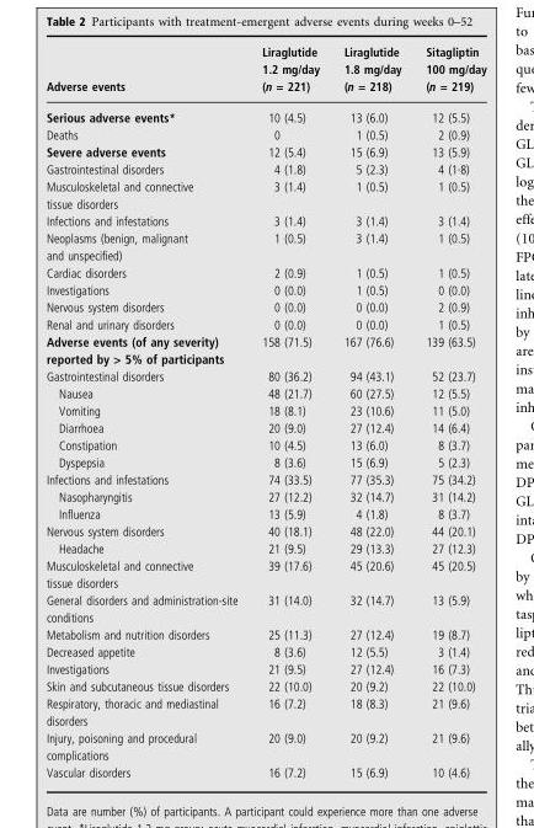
<table><thead><tr><td>Adverse events</td><td>Liraglutide 1.2 mg/day (n = 221)</td><td>Liraglutide 1.8 mg/day (n = 218)</td><td>Sitagliptin 100 mg/day (n = 219)</td></tr></thead><tbody><tr><td>Serious adverse events*</td><td>10 (4.5)</td><td>13 (6.0)</td><td>12 (5.5)</td></tr><tr><td>Deaths</td><td>0</td><td>1 (0.5)</td><td>2 (0.9)</td></tr><tr><td>Severe adverse events</td><td>12 (5.4)</td><td>15 (6.9)</td><td>13 (5.9)</td></tr><tr><td>Gastrointestinal disorders</td><td>4 (1.8)</td><td>5 (2.3)</td><td>4 (1Æ8)</td></tr><tr><td>Musculoskeletal and connective tissue disorders</td><td>3 (1.4)</td><td>1 (0.5)</td><td>1 (0.5)</td></tr><tr><td>Infections and infestations</td><td>3 (1.4)</td><td>3 (1.4)</td><td>3 (1.4)</td></tr><tr><td>Neoplasms (benign, malignant and unspecified)</td><td>1 (0.5)</td><td>3 (1.4)</td><td>1 (0.5)</td></tr><tr><td>Cardiac disorders</td><td>2 (0.9)</td><td>1 (0.5)</td><td>1 (0.5)</td></tr><tr><td>Investigations</td><td>0 (0.0)</td><td>1 (0.5)</td><td>0 (0.0)</td></tr><tr><td>Nervous system disorders</td><td>0 (0.0)</td><td>0 (0.0)</td><td>2 (0.9)</td></tr><tr><td>Renal and urinary disorders</td><td>0 (0.0)</td><td>0 (0.0)</td><td>1 (0.5)</td></tr><tr><td>Adverse events (of any severity) reported by &gt; 5% of participants</td><td>158 (71.5)</td><td>167 (76.6)</td><td>139 (63.5)</td></tr><tr><td>Gastrointestinal disorders</td><td>80 (36.2)</td><td>94 (43.1)</td><td>52 (23.7)</td></tr><tr><td>Nausea</td><td>48 (21.7)</td><td>60 (27.5)</td><td>12 (5.5)</td></tr><tr><td>Vomiting</td><td>18 (8.1)</td><td>23 (10.6)</td><td>11 (5.0)</td></tr><tr><td>Diarrhoea</td><td>20 (9.0)</td><td>27 (12.4)</td><td>14 (6.4)</td></tr><tr><td>Constipation</td><td>10 (4.5)</td><td>13 (6.0)</td><td>8 (3.7)</td></tr><tr><td>Dyspepsia</td><td>8 (3.6)</td><td>15 (6.9)</td><td>5 (2.3)</td></tr><tr><td>Infections and infestations</td><td>74 (33.5)</td><td>77 (35.3)</td><td>75 (34.2)</td></tr><tr><td>Nasopharyngitis</td><td>27 (12.2)</td><td>32 (14.7)</td><td>31 (14.2)</td></tr><tr><td>Influenza</td><td>13 (5.9)</td><td>4 (1.8)</td><td>8 (3.7)</td></tr><tr><td>Nervous system disorders</td><td>40 (18.1)</td><td>48 (22.0)</td><td>44 (20.1)</td></tr><tr><td>Headache</td><td>21 (9.5)</td><td>29 (13.3)</td><td>27 (12.3)</td></tr><tr><td>Musculoskeletal and connective tissue disorders</td><td>39 (17.6)</td><td>45 (20.6)</td><td>45 (20.5)</td></tr><tr><td>General disorders and administration-site conditions</td><td>31 (14.0)</td><td>32 (14.7)</td><td>13 (5.9)</td></tr><tr><td>Metabolism and nutrition disorders</td><td>25 (11.3)</td><td>27 (12.4)</td><td>19 (8.7)</td></tr><tr><td>Decreased appetite</td><td>8 (3.6)</td><td>12 (5.5)</td><td>3 (1.4)</td></tr><tr><td>Investigations</td><td>21 (9.5)</td><td>27 (12.4)</td><td>16 (7.3)</td></tr><tr><td>Skin and subcutaneous tissue disorders</td><td>22 (10.0)</td><td>20 (9.2)</td><td>22 (10.0)</td></tr><tr><td>Respiratory, thoracic and mediastinal disorders</td><td>16 (7.2)</td><td>18 (8.3)</td><td>21 (9.6)</td></tr><tr><td>Injury, poisoning and procedural complications</td><td>20 (9.0)</td><td>20 (9.2)</td><td>21 (9.6)</td></tr><tr><td>Vascular disorders</td><td>16 (7.2)</td><td>15 (6.9)</td><td>10 (4.6)</td></tr></tbody></table>